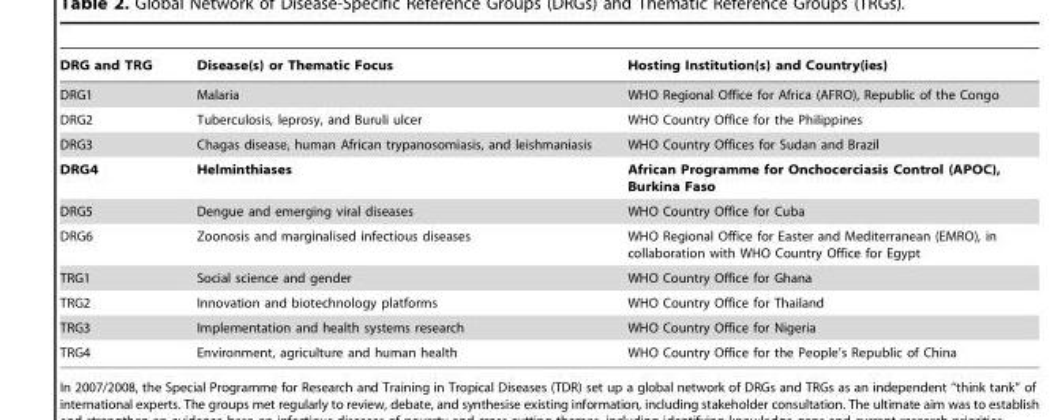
<table><thead><tr><td>DRG and TRG</td><td>Disease(s) or Thematic Focus</td><td>Hosting Institution(s) and Country(ies)</td></tr></thead><tbody><tr><td>DRG1</td><td>Malaria</td><td>WHO Regional Office for Africa (AFRO), Republic of the Congo</td></tr><tr><td>DRG2</td><td>Tuberculosis, leprosy, and Buruli ulcer</td><td>WHO Country Office for the Philippines</td></tr><tr><td>DRG3</td><td>Chagas disease, human African trypanosomiasis, and leishmaniasis</td><td>WHO Country Offices for Sudan and Brazil</td></tr><tr><td>DRG4</td><td>Helminthiases</td><td>African Programme for Onchocerciasis Control (APOC), Burkina Faso</td></tr><tr><td>DRG5</td><td>Dengue and emerging viral diseases</td><td>WHO Country Office for Cuba</td></tr><tr><td>DRG6</td><td>Zoonosis and marginalised infectious diseases</td><td>WHO Regional Office for Easter and Mediterranean (EMRO), in collaboration with WHO Country Office for Egypt</td></tr><tr><td>TRG1</td><td>Social science and gender</td><td>WHO Country Office for Ghana</td></tr><tr><td>TRG2</td><td>Innovation and biotechnology platforms</td><td>WHO Country Office for Thailand</td></tr><tr><td>TRG3</td><td>Implementation and health systems research</td><td>WHO Country Office for Nigeria</td></tr><tr><td>TRG4</td><td>Environment, agriculture and human health</td><td>WHO Country Office for the People’s Republic of China</td></tr></tbody></table>